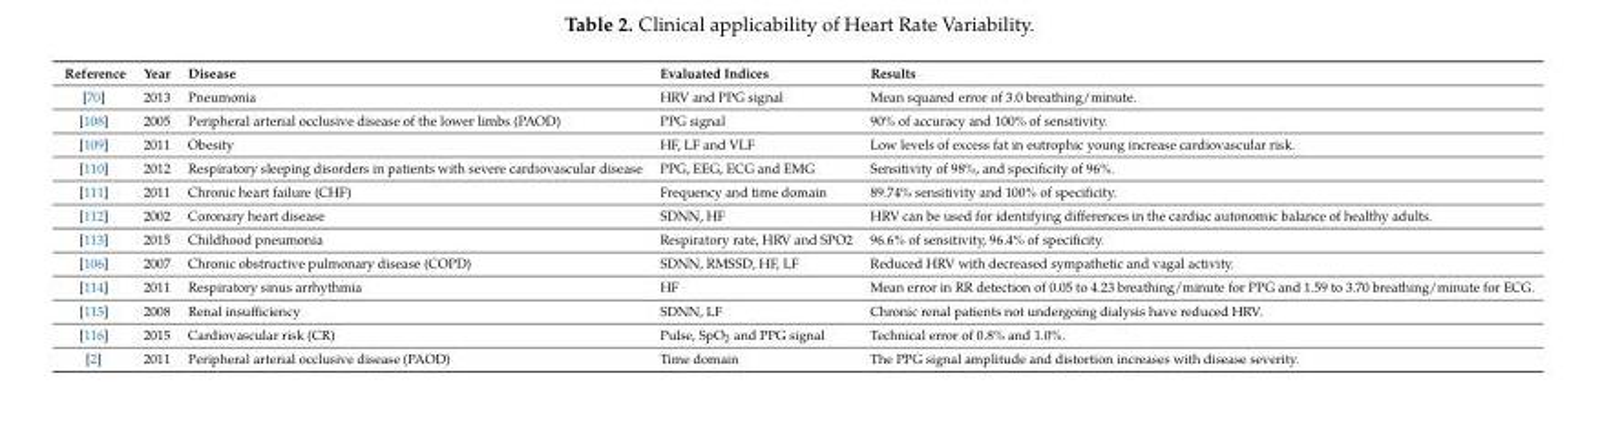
<table><thead><tr><td>Reference</td><td>Year</td><td>Disease</td><td>Evaluated Indices</td><td>Results</td></tr></thead><tbody><tr><td>[70]</td><td>2013</td><td>Pneumonia</td><td>HRV and PPG signal</td><td>Mean squared error of 3.0 breathing/minute.</td></tr><tr><td>[108]</td><td>2005</td><td>Peripheral arterial occlusive disease of the lower limbs (PAOD)</td><td>PPG signal</td><td>90% of accuracy and 100% of sensitivity.</td></tr><tr><td>[109]</td><td>2011</td><td>Obesity</td><td>HF, LF and VLF</td><td>Low levels of excess fat in eutrophic young increase cardiovascular risk.</td></tr><tr><td>[110]</td><td>2012</td><td>Respiratory sleeping disorders in patients with severe cardiovascular disease</td><td>PPG, EEG, ECG and EMG</td><td>Sensitivity of 98%, and specificity of 96%.</td></tr><tr><td>[111]</td><td>2011</td><td>Chronic heart failure (CHF)</td><td>Frequency and time domain</td><td>89.74% sensitivity and 100% of specificity.</td></tr><tr><td>[112]</td><td>2002</td><td>Coronary heart disease</td><td>SDNN, HF</td><td>HRV can be used for identifying differences in the cardiac autonomic balance of healthy adults.</td></tr><tr><td>[113]</td><td>2015</td><td>Childhood pneumonia</td><td>Respiratory rate, HRV and SPO2</td><td>96.6% of sensitivity, 96.4% of specificity.</td></tr><tr><td>[106]</td><td>2007</td><td>Chronic obstructive pulmonary disease (COPD)</td><td>SDNN, RMSSD, HF, LF</td><td>Reduced HRV with decreased sympathetic and vagal activity.</td></tr><tr><td>[114]</td><td>2011</td><td>Respiratory sinus arrhythmia</td><td>HF</td><td>Mean error in RR detection of 0.05 to 4.23 breathing/minute for PPG and 1.59 to 3.70 breathing/minute for ECG.</td></tr><tr><td>[115]</td><td>2008</td><td>Renal insufficiency</td><td>SDNN, LF</td><td>Chronic renal patients not undergoing dialysis have reduced HRV.</td></tr><tr><td>[116]</td><td>2015</td><td>Cardiovascular risk (CR)</td><td>Pulse, SpO<sub>2</sub> and PPG signal</td><td>Technical error of 0.8% and 1.0%.</td></tr><tr><td>[2]</td><td>2011</td><td>Peripheral arterial occlusive disease (PAOD)</td><td>Time domain</td><td>The PPG signal amplitude and distortion increases with disease severity.</td></tr></tbody></table>